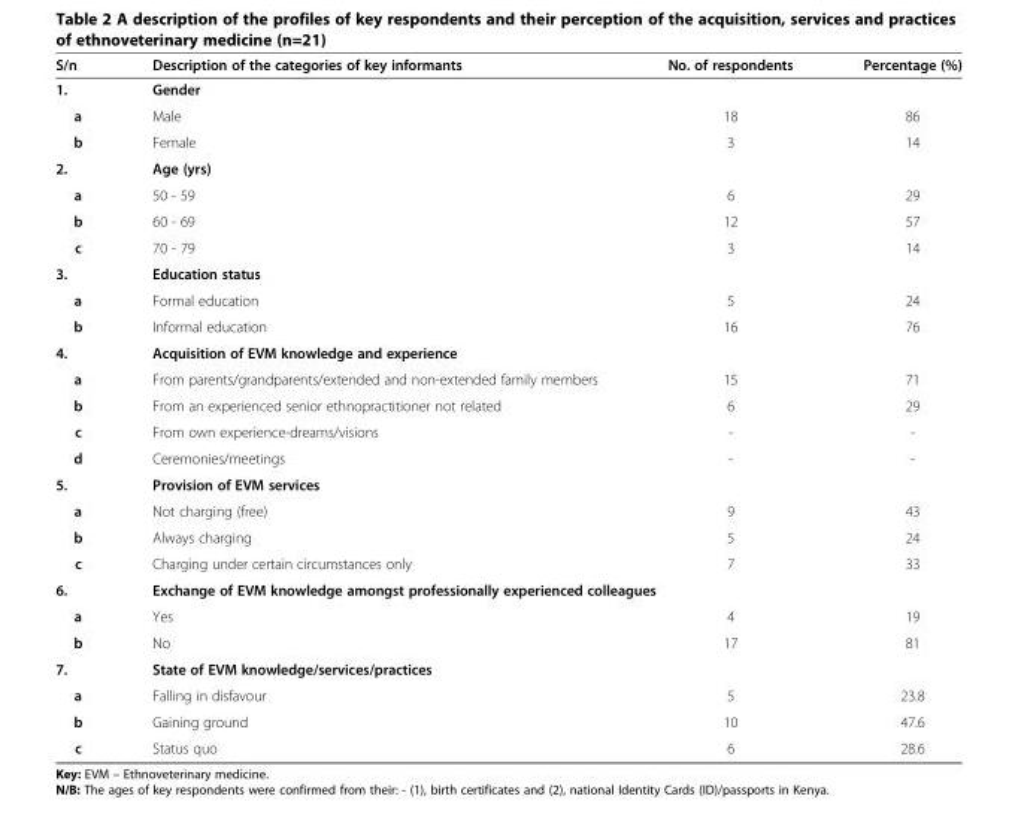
<table><thead><tr><td>S/n</td><td>Description of the categories of key informants</td><td>No. of respondents</td><td>Percentage (%)</td></tr></thead><tbody><tr><td>1.</td><td colspan="3">Gender</td></tr><tr><td>a</td><td>Male</td><td>18</td><td>86</td></tr><tr><td>b</td><td>Female</td><td>3</td><td>14</td></tr><tr><td>2.</td><td colspan="3">Age (yrs)</td></tr><tr><td>a</td><td>50 - 59</td><td>6</td><td>29</td></tr><tr><td>b</td><td>60 - 69</td><td>12</td><td>57</td></tr><tr><td>c</td><td>70 - 79</td><td>3</td><td>14</td></tr><tr><td>3.</td><td colspan="3">Education status</td></tr><tr><td>a</td><td>Formal education</td><td>5</td><td>24</td></tr><tr><td>b</td><td>Informal education</td><td>16</td><td>76</td></tr><tr><td>4.</td><td colspan="3">Acquisition of EVM knowledge and experience</td></tr><tr><td>a</td><td>From parents/grandparents/extended and non-extended family members</td><td>15</td><td>71</td></tr><tr><td>b</td><td>From an experienced senior ethnopractitioner not related</td><td>6</td><td>29</td></tr><tr><td>c</td><td>From own experience-dreams/visions</td><td>-</td><td>-</td></tr><tr><td>d</td><td>Ceremonies/meetings</td><td>-</td><td>-</td></tr><tr><td>5.</td><td colspan="3">Provision of EVM services</td></tr><tr><td>a</td><td>Not charging (free)</td><td>9</td><td>43</td></tr><tr><td>b</td><td>Always charging</td><td>5</td><td>24</td></tr><tr><td>c</td><td>Charging under certain circumstances only</td><td>7</td><td>33</td></tr><tr><td>6.</td><td colspan="3">Exchange of EVM knowledge amongst professionally experienced colleagues</td></tr><tr><td>a</td><td>Yes</td><td>4</td><td>19</td></tr><tr><td>b</td><td>No</td><td>17</td><td>81</td></tr><tr><td>7.</td><td colspan="3">State of EVM knowledge/services/practices</td></tr><tr><td>a</td><td>Falling in disfavour</td><td>5</td><td>23.8</td></tr><tr><td>b</td><td>Gaining ground</td><td>10</td><td>47.6</td></tr><tr><td>c</td><td>Status quo</td><td>6</td><td>28.6</td></tr></tbody></table>